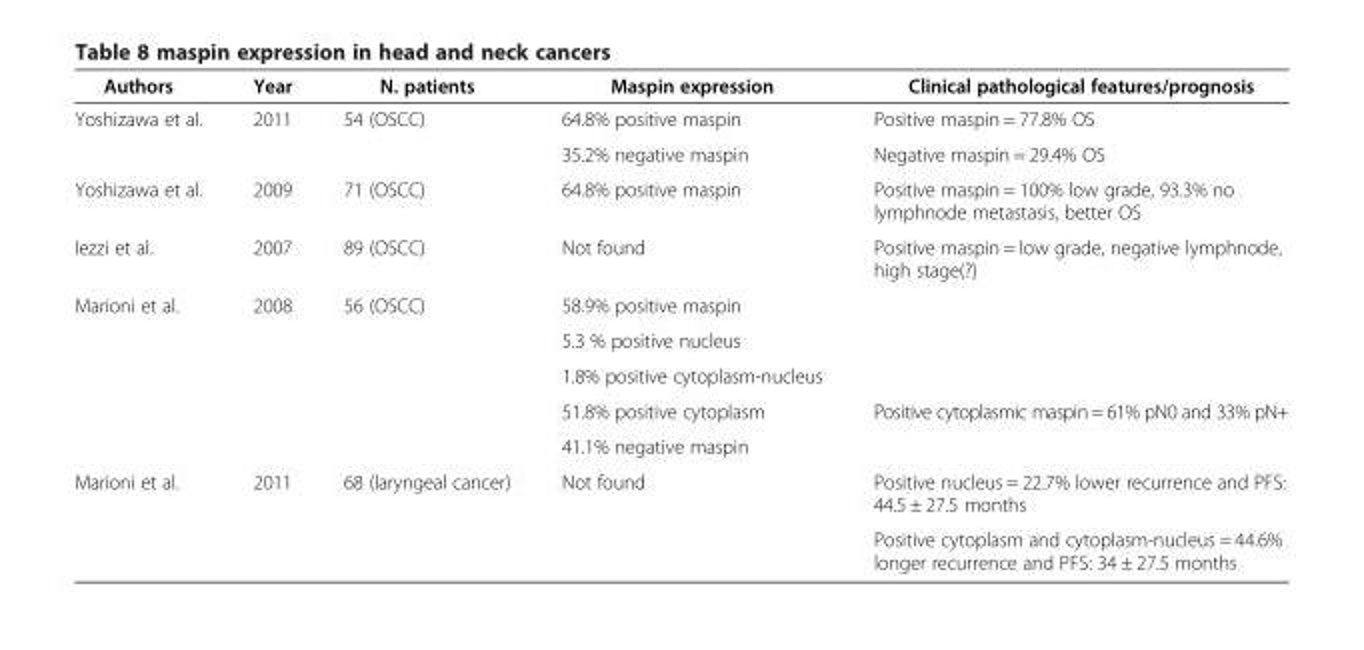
<table><thead><tr><td>Authors</td><td>Year</td><td>N. patients</td><td>Maspin expression</td><td>Clinical pathological features/prognosis</td></tr></thead><tbody><tr><td rowspan="2">Yoshizawa et al.</td><td rowspan="2">2011</td><td rowspan="2">54 (OSCC)</td><td>64.8% positive maspin</td><td>Positive maspin = 77.8% OS</td></tr><tr><td>35.2% negative maspin</td><td>Negative maspin = 29.4% OS</td></tr><tr><td>Yoshizawa et al.</td><td>2009</td><td>71 (OSCC)</td><td>64.8% positive maspin</td><td>Positive maspin = 100% low grade, 93.3% no lymphnode metastasis, better OS</td></tr><tr><td>Iezzi et al.</td><td>2007</td><td>89 (OSCC)</td><td>Not found</td><td>Positive maspin = low grade, negative lymphnode, high stage(?)</td></tr><tr><td rowspan="5">Marioni et al.</td><td rowspan="5">2008</td><td rowspan="5">56 (OSCC)</td><td>58.9% positive maspin</td><td></td></tr><tr><td>5.3 % positive nucleus</td><td></td></tr><tr><td>1.8% positive cytoplasm-nucleus</td><td></td></tr><tr><td>51.8% positive cytoplasm</td><td>Positive cytoplasmic maspin = 61% pN0 and 33% pN+</td></tr><tr><td>41.1% negative maspin</td><td></td></tr><tr><td rowspan="2">Marioni et al.</td><td>2011</td><td>68 (laryngeal cancer)</td><td>Not found</td><td>Positive nucleus = 22.7% lower recurrence and PFS: 44.5 ± 27.5 months</td></tr><tr><td></td><td></td><td></td><td>Positive cytoplasm and cytoplasm-nucleus = 44.6% longer recurrence and PFS: 34 ± 27.5 months</td></tr></tbody></table>